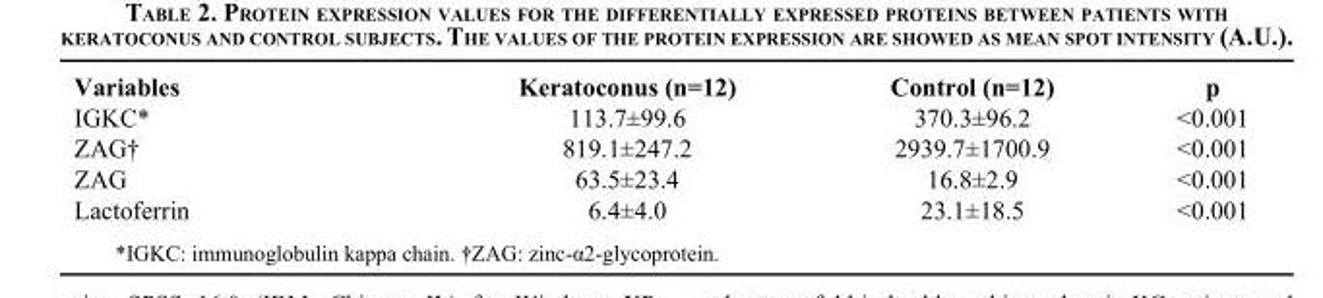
<table><thead><tr><td>Variables</td><td>Keratoconus (n=12)</td><td>Control (n=12)</td><td>p</td></tr></thead><tbody><tr><td>IGKC*</td><td>113.7±99.6</td><td>370.3±96.2</td><td>&lt;0.001</td></tr><tr><td>ZAG†</td><td>819.1±247.2</td><td>2939.7±1700.9</td><td>&lt;0.001</td></tr><tr><td>ZAG</td><td>63.5±23.4</td><td>16.8±2.9</td><td>&lt;0.001</td></tr><tr><td>Lactoferrin</td><td>6.4±4.0</td><td>23.1±18.5</td><td>&lt;0.001</td></tr></tbody></table>